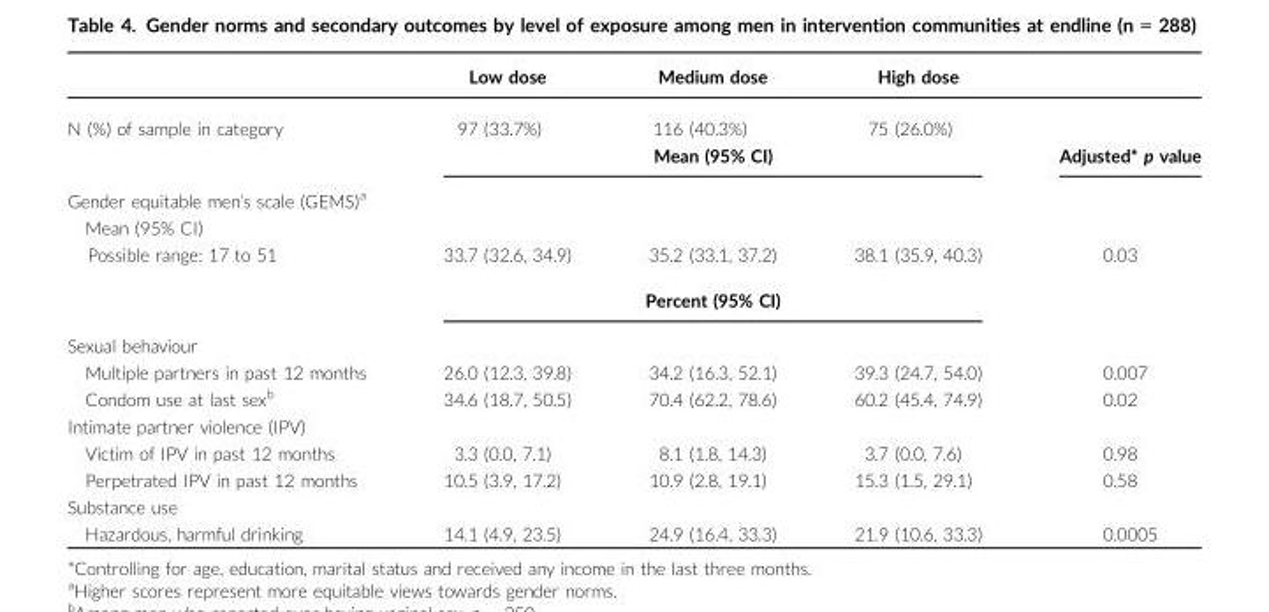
<table><thead><tr><td></td><td>Low dose</td><td>Medium dose</td><td>High dose</td><td></td></tr></thead><tbody><tr><td rowspan="2">N (%) of sample in category</td><td>97 (33.7%)</td><td>116 (40.3%)</td><td>75 (26.0%)</td><td></td></tr><tr><td colspan="3">Mean (95% CI)</td><td>Adjusted* p value</td></tr><tr><td colspan="5">Gender equitable men’s scale (GEMS)a</td></tr><tr><td rowspan="2">Mean (95% CI) Possible range: 17 to 51</td><td>33.7 (32.6, 34.9)</td><td>35.2 (33.1, 37.2)</td><td>38.1 (35.9, 40.3)</td><td>0.03</td></tr><tr><td colspan="3">Percent (95% CI)</td><td></td></tr><tr><td colspan="5">Sexual behaviour</td></tr><tr><td>Multiple partners in past 12 months</td><td>26.0 (12.3, 39.8)</td><td>34.2 (16.3, 52.1)</td><td>39.3 (24.7, 54.0)</td><td>0.007</td></tr><tr><td>Condom use at last sexb</td><td>34.6 (18.7, 50.5)</td><td>70.4 (62.2, 78.6)</td><td>60.2 (45.4, 74.9)</td><td>0.02</td></tr><tr><td colspan="5">Intimate partner violence (IPV)</td></tr><tr><td>Victim of IPV in past 12 months</td><td>3.3 (0.0, 7.1)</td><td>8.1 (1.8, 14.3)</td><td>3.7 (0.0, 7.6)</td><td>0.98</td></tr><tr><td>Perpetrated IPV in past 12 months</td><td>10.5 (3.9, 17.2)</td><td>10.9 (2.8, 19.1)</td><td>15.3 (1.5, 29.1)</td><td>0.58</td></tr><tr><td colspan="5">Substance use</td></tr><tr><td>Hazardous, harmful drinking</td><td>14.1 (4.9, 23.5)</td><td>24.9 (16.4, 33.3)</td><td>21.9 (10.6, 33.3)</td><td>0.0005</td></tr></tbody></table>